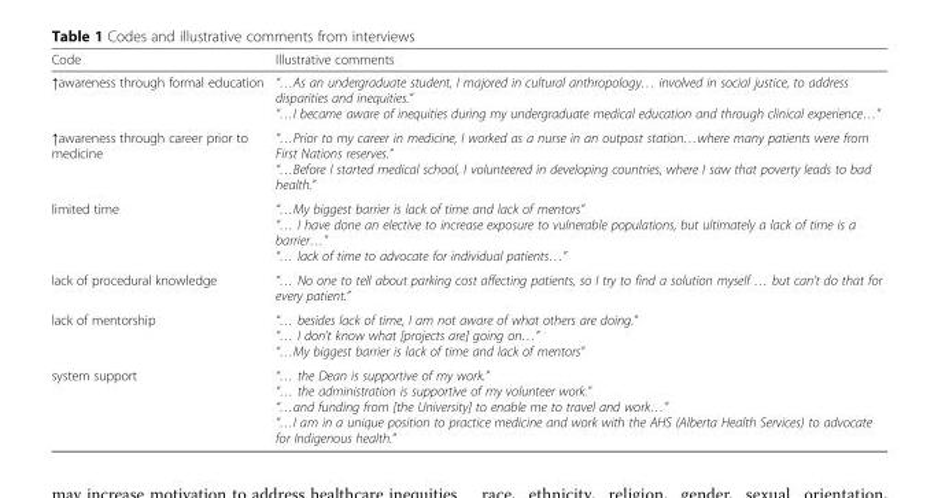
<table><thead><tr><td>Code</td><td>Illustrative comments</td></tr></thead><tbody><tr><td>↑awareness through formal education</td><td>“…As an undergraduate student, I majored in cultural anthropology… involved in social justice, to address disparities and inequities.” “…I became aware of inequities during my undergraduate medical education and through clinical experience…”</td></tr><tr><td>↑awareness through career prior to medicine</td><td>“…Prior to my career in medicine, I worked as a nurse in an outpost station…where many patients were from First Nations reserves.” “…Before I started medical school, I volunteered in developing countries, where I saw that poverty leads to bad health.”</td></tr><tr><td>limited time</td><td>“…My biggest barrier is lack of time and lack of mentors” “… I have done an elective to increase exposure to vulnerable populations, but ultimately a lack of time is a barrier…” “… lack of time to advocate for individual patients…”</td></tr><tr><td>lack of procedural knowledge</td><td>“… No one to tell about parking cost affecting patients, so I try to find a solution myself … but can’t do that for every patient.”</td></tr><tr><td>lack of mentorship</td><td>“… besides lack of time, I am not aware of what others are doing.” “… I don’t know what [projects are] going on…” “…My biggest barrier is lack of time and lack of mentors”</td></tr><tr><td>system support</td><td>“… the Dean is supportive of my work.” “… the administration is supportive of my volunteer work.” “…and funding from [the University] to enable me to travel and work…” “…I am in a unique position to practice medicine and work with the AHS (Alberta Health Services) to advocate for Indigenous health.”</td></tr></tbody></table>